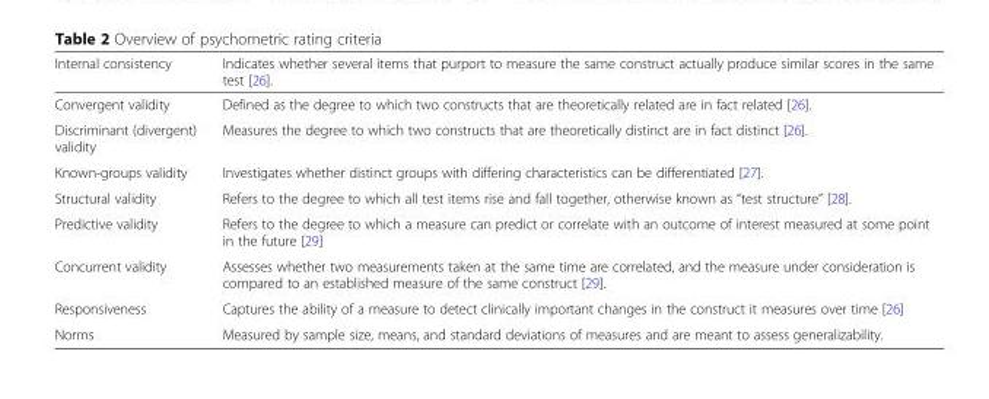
<table><thead><tr><td>Internal consistency</td><td>Indicates whether several items that purport to measure the same construct actually produce similar scores in the same test [26].</td></tr></thead><tbody><tr><td>Convergent validity</td><td>Defined as the degree to which two constructs that are theoretically related are in fact related [26].</td></tr><tr><td>Discriminant (divergent) validity</td><td>Measures the degree to which two constructs that are theoretically distinct are in fact distinct [26].</td></tr><tr><td>Known-groups validity</td><td>Investigates whether distinct groups with differing characteristics can be differentiated [27].</td></tr><tr><td>Structural validity</td><td>Refers to the degree to which all test items rise and fall together, otherwise known as “test structure” [28].</td></tr><tr><td>Predictive validity</td><td>Refers to the degree to which a measure can predict or correlate with an outcome of interest measured at some point in the future [29]</td></tr><tr><td>Concurrent validity</td><td>Assesses whether two measurements taken at the same time are correlated, and the measure under consideration is compared to an established measure of the same construct [29].</td></tr><tr><td>Responsiveness</td><td>Captures the ability of a measure to detect clinically important changes in the construct it measures over time [26]</td></tr><tr><td>Norms</td><td>Measured by sample size, means, and standard deviations of measures and are meant to assess generalizability.</td></tr></tbody></table>